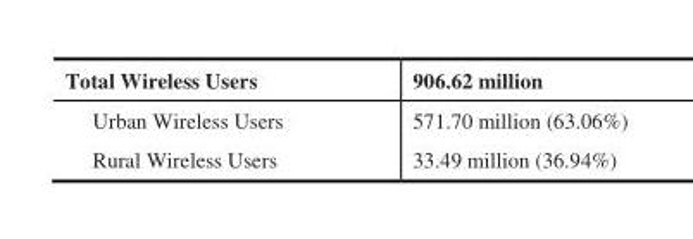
<table><thead><tr><td>Total Wireless Users</td><td>906.62 million</td></tr></thead><tbody><tr><td>Urban Wireless Users</td><td>571.70 million (63.06%)</td></tr><tr><td>Rural Wireless Users</td><td>33.49 million (36.94%)</td></tr></tbody></table>